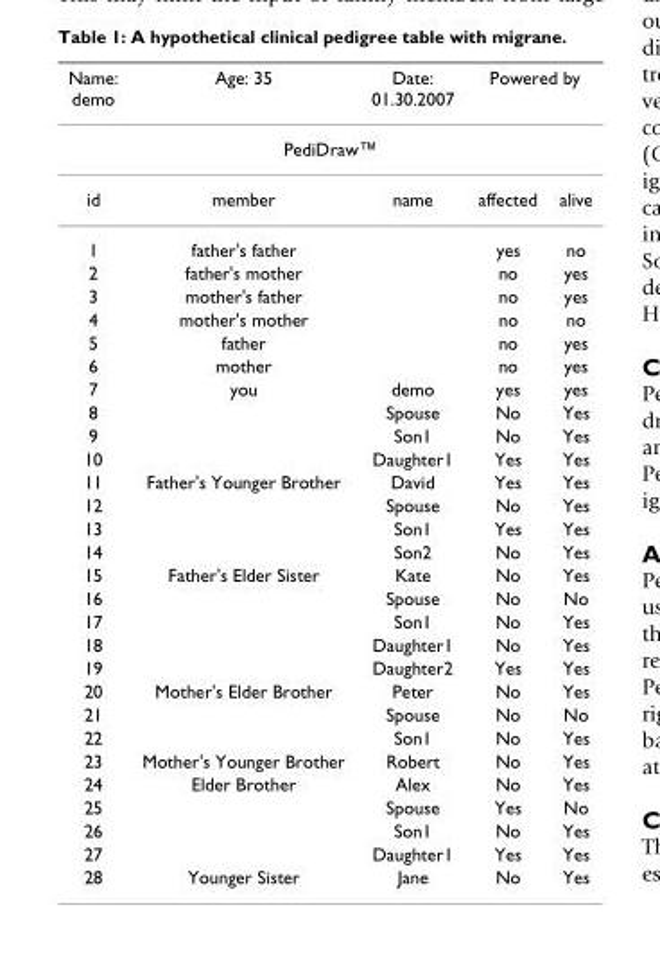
<table><thead><tr><td>Name: demo</td><td>Age: 35</td><td>Date: 01.30.2007</td><td colspan="2">Powered by</td></tr><tr><td colspan="5">PediDraw™</td></tr><tr><td>id</td><td>member</td><td>name</td><td>affected</td><td>alive</td></tr></thead><tbody><tr><td>1</td><td>father&#x27;s father</td><td></td><td>yes</td><td>no</td></tr><tr><td>2</td><td>father&#x27;s mother</td><td></td><td>no</td><td>yes</td></tr><tr><td>3</td><td>mother&#x27;s father</td><td></td><td>no</td><td>yes</td></tr><tr><td>4</td><td>mother&#x27;s mother</td><td></td><td>no</td><td>no</td></tr><tr><td>5</td><td>father</td><td></td><td>no</td><td>yes</td></tr><tr><td>6</td><td>mother</td><td></td><td>no</td><td>yes</td></tr><tr><td>7</td><td>you</td><td>demo</td><td>yes</td><td>yes</td></tr><tr><td>8</td><td></td><td>Spouse</td><td>No</td><td>Yes</td></tr><tr><td>9</td><td></td><td>Son1</td><td>No</td><td>Yes</td></tr><tr><td>10</td><td></td><td>Daughter1</td><td>Yes</td><td>Yes</td></tr><tr><td>11</td><td>Father&#x27;s Younger Brother</td><td>David</td><td>Yes</td><td>Yes</td></tr><tr><td>12</td><td></td><td>Spouse</td><td>No</td><td>Yes</td></tr><tr><td>13</td><td></td><td>Son1</td><td>Yes</td><td>Yes</td></tr><tr><td>14</td><td></td><td>Son2</td><td>No</td><td>Yes</td></tr><tr><td>15</td><td>Father&#x27;s Elder Sister</td><td>Kate</td><td>No</td><td>Yes</td></tr><tr><td>16</td><td></td><td>Spouse</td><td>No</td><td>No</td></tr><tr><td>17</td><td></td><td>Son1</td><td>No</td><td>Yes</td></tr><tr><td>18</td><td></td><td>Daughter1</td><td>No</td><td>Yes</td></tr><tr><td>19</td><td></td><td>Daughter2</td><td>Yes</td><td>Yes</td></tr><tr><td>20</td><td>Mother&#x27;s Elder Brother</td><td>Peter</td><td>No</td><td>Yes</td></tr><tr><td>21</td><td></td><td>Spouse</td><td>No</td><td>No</td></tr><tr><td>22</td><td></td><td>Son1</td><td>No</td><td>Yes</td></tr><tr><td>23</td><td>Mother&#x27;s Younger Brother</td><td>Robert</td><td>No</td><td>Yes</td></tr><tr><td>24</td><td>Elder Brother</td><td>Alex</td><td>No</td><td>Yes</td></tr><tr><td>25</td><td></td><td>Spouse</td><td>Yes</td><td>No</td></tr><tr><td>26</td><td></td><td>Son1</td><td>No</td><td>Yes</td></tr><tr><td>27</td><td></td><td>Daughter1</td><td>Yes</td><td>Yes</td></tr><tr><td>28</td><td>Younger Sister</td><td>Jane</td><td>No</td><td>Yes</td></tr></tbody></table>